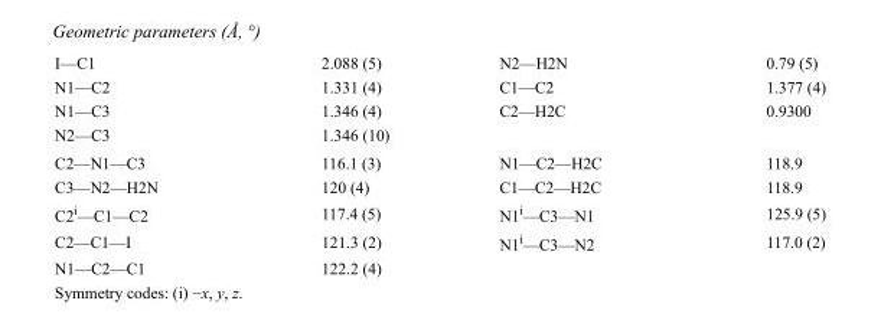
<table><tbody><tr><td>I—C1</td><td>2.088 (5)</td><td>N2—H2N</td><td>0.79 (5)</td></tr><tr><td>N1—C2</td><td>1.331 (4)</td><td>C1—C2</td><td>1.377 (4)</td></tr><tr><td>N1—C3</td><td>1.346 (4)</td><td>C2—H2C</td><td>0.9300</td></tr><tr><td>N2—C3</td><td>1.346 (10)</td><td></td><td></td></tr><tr><td>C2—N1—C3</td><td>116.1 (3)</td><td>N1—C2—H2C</td><td>118.9</td></tr><tr><td>C3—N2—H2N</td><td>120 (4)</td><td>C1—C2—H2C</td><td>118.9</td></tr><tr><td>C2<sup>i</sup>—C1—C2</td><td>117.4 (5)</td><td>N1<sup>i</sup>—C3—N1</td><td>125.9 (5)</td></tr><tr><td>C2—C1—I</td><td>121.3 (2)</td><td>N1<sup>i</sup>—C3—N2</td><td>117.0 (2)</td></tr><tr><td>N1—C2—C1</td><td>122.2 (4)</td><td></td><td></td></tr></tbody></table>